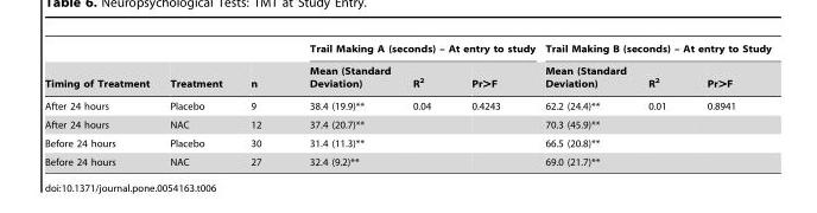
<table><thead><tr><td rowspan="2">Timing of Treatment</td><td rowspan="2">Treatment</td><td rowspan="2">n</td><td colspan="3">Trail Making A (seconds) – At entry to study</td><td colspan="3">Trail Making B (seconds) – At entry to Study</td></tr><tr><td>Mean (Standard Deviation)</td><td>R<sup>2</sup></td><td>Pr&gt;F</td><td>Mean (Standard Deviation)</td><td>R<sup>2</sup></td><td>Pr&gt;F</td></tr></thead><tbody><tr><td>After 24 hours</td><td>Placebo</td><td>9</td><td>38.4 (19.9)**</td><td>0.04</td><td>0.4243</td><td>62.2 (24.4)**</td><td>0.01</td><td>0.8941</td></tr><tr><td>After 24 hours</td><td>NAC</td><td>12</td><td>37.4 (20.7)**</td><td></td><td></td><td>70.3 (45.9)**</td><td></td><td></td></tr><tr><td>Before 24 hours</td><td>Placebo</td><td>30</td><td>31.4 (11.3)**</td><td></td><td></td><td>66.5 (20.8)**</td><td></td><td></td></tr><tr><td>Before 24 hours</td><td>NAC</td><td>27</td><td>32.4 (9.2)**</td><td></td><td></td><td>69.0 (21.7)**</td><td></td><td></td></tr></tbody></table>